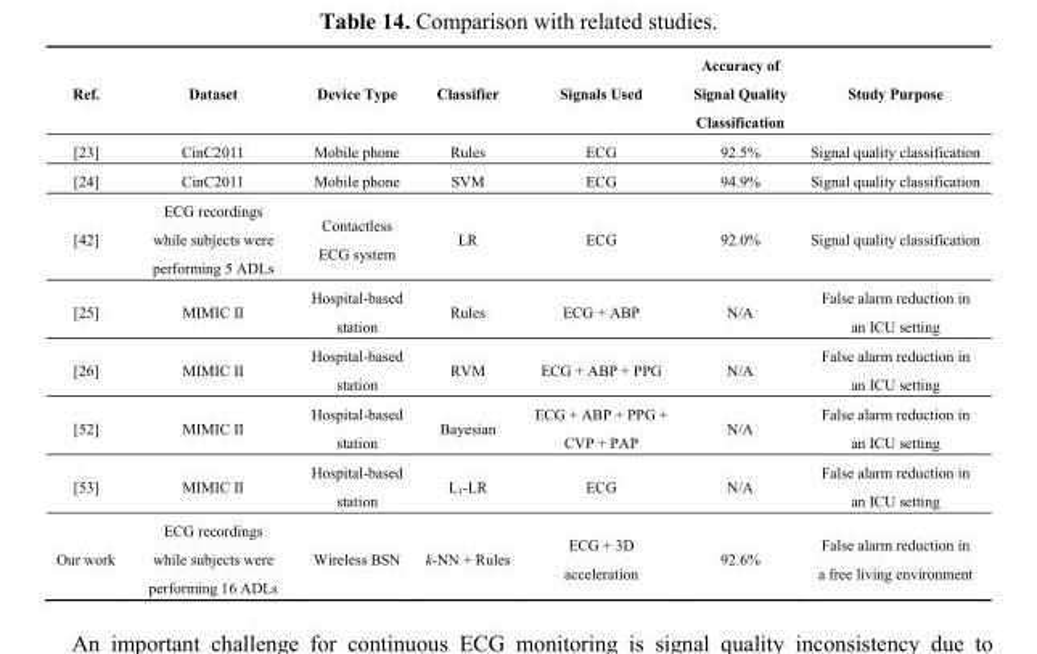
<table><thead><tr><td>Ref.</td><td>Dataset</td><td>Device Type</td><td>Classifier</td><td>Signals Used</td><td>Accuracy of Signal Quality Classification</td><td>Study Purpose</td></tr></thead><tbody><tr><td>[23]</td><td>CinC2011</td><td>Mobile phone</td><td>Rules</td><td>ECG</td><td>92.5%</td><td>Signal quality classification</td></tr><tr><td>[24]</td><td>CinC2011</td><td>Mobile phone</td><td>SVM</td><td>ECG</td><td>94.9%</td><td>Signal quality classification</td></tr><tr><td>[42]</td><td>ECG recordings while subjects were performing 5 ADLs</td><td>Contactless ECG system</td><td>LR</td><td>ECG</td><td>92.0%</td><td>Signal quality classification</td></tr><tr><td>[25]</td><td>MIMIC II</td><td>Hospital-based station</td><td>Rules</td><td>ECG + ABP</td><td>N/A</td><td>False alarm reduction in an ICU setting</td></tr><tr><td>[26]</td><td>MIMIC II</td><td>Hospital-based station</td><td>RVM</td><td>ECG + ABP + PPG</td><td>N/A</td><td>False alarm reduction in an ICU setting</td></tr><tr><td>[52]</td><td>MIMIC II</td><td>Hospital-based station</td><td>Bayesian</td><td>ECG + ABP + PPG + CVP + PAP</td><td>N/A</td><td>False alarm reduction in an ICU setting</td></tr><tr><td>[53]</td><td>MIMIC II</td><td>Hospital-based station</td><td>L<sub>1</sub>-LR</td><td>ECG</td><td>N/A</td><td>False alarm reduction in an ICU setting</td></tr><tr><td>Our work</td><td>ECG recordings while subjects were performing 16 ADLs</td><td>Wireless BSN</td><td>k-NN + Rules</td><td>ECG + 3D acceleration</td><td>92.6%</td><td>False alarm reduction in a free living environment</td></tr></tbody></table>